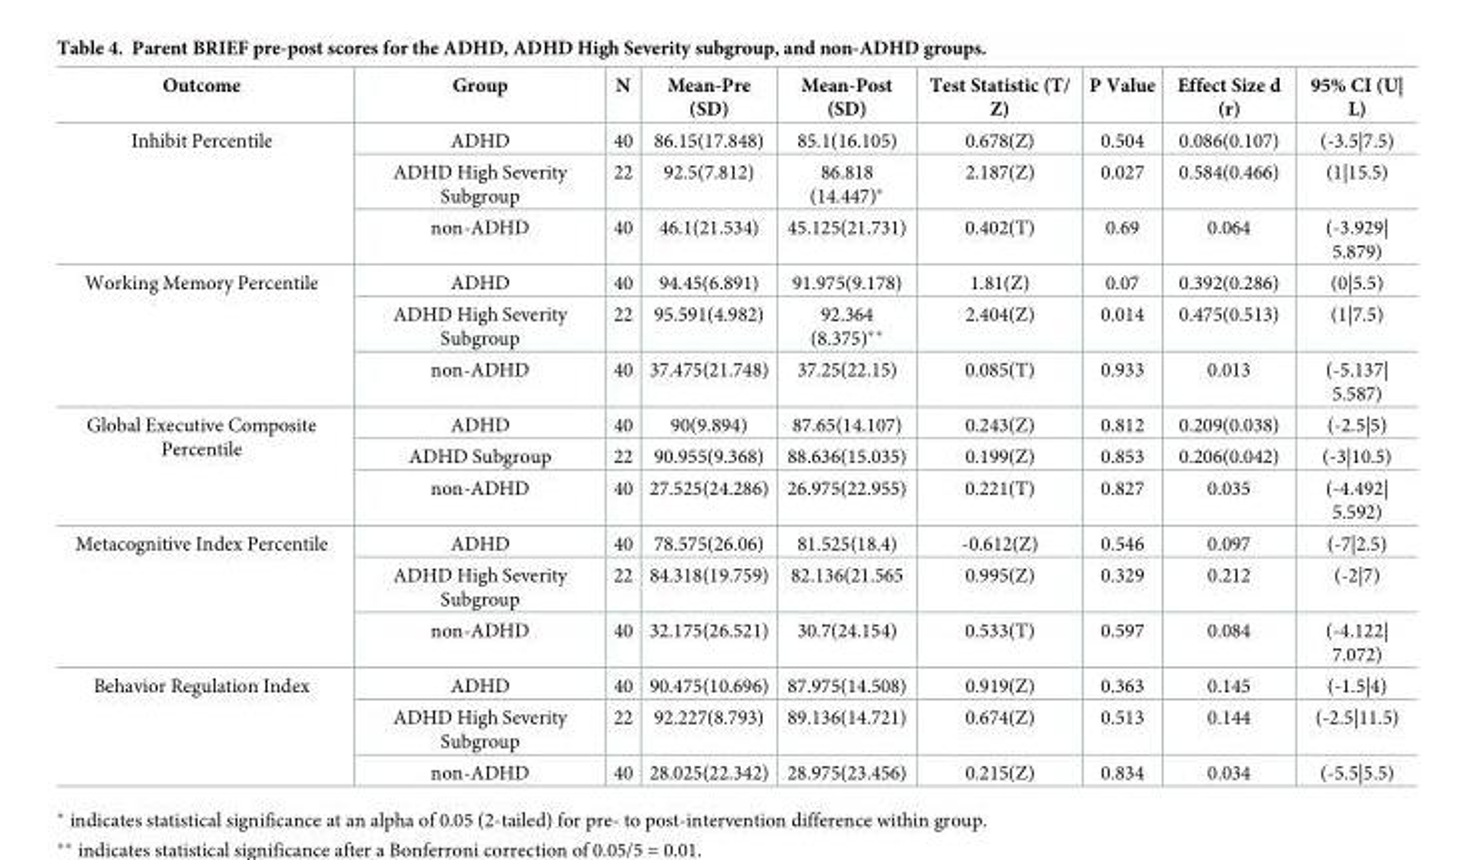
<table><thead><tr><td>Outcome</td><td>Group</td><td>N</td><td>Mean-Pre (SD)</td><td>Mean-Post (SD)</td><td>Test Statistic (T/ Z)</td><td>P Value</td><td>Effect Size d (r)</td><td>95% CI (U| L)</td></tr></thead><tbody><tr><td rowspan="3">Inhibit Percentile</td><td>ADHD</td><td>40</td><td>86.15(17.848)</td><td>85.1(16.105)</td><td>0.678(Z)</td><td>0.504</td><td>0.086(0.107)</td><td>(-3.5|7.5)</td></tr><tr><td>ADHD High Severity Subgroup</td><td>22</td><td>92.5(7.812)</td><td>86.818 (14.447)*</td><td>2.187(Z)</td><td>0.027</td><td>0.584(0.466)</td><td>(1|15.5)</td></tr><tr><td>non-ADHD</td><td>40</td><td>46.1(21.534)</td><td>45.125(21.731)</td><td>0.402(T)</td><td>0.69</td><td>0.064</td><td>(-3.929| 5.879)</td></tr><tr><td rowspan="3">Working Memory Percentile</td><td>ADHD</td><td>40</td><td>94.45(6.891)</td><td>91.975(9.178)</td><td>1.81(Z)</td><td>0.07</td><td>0.392(0.286)</td><td>(0|5.5)</td></tr><tr><td>ADHD High Severity Subgroup</td><td>22</td><td>95.591(4.982)</td><td>92.364 (8.375)**</td><td>2.404(Z)</td><td>0.014</td><td>0.475(0.513)</td><td>(1|7.5)</td></tr><tr><td>non-ADHD</td><td>40</td><td>37.475(21.748)</td><td>37.25(22.15)</td><td>0.085(T)</td><td>0.933</td><td>0.013</td><td>(-5.137| 5.587)</td></tr><tr><td rowspan="3">Global Executive Composite Percentile</td><td>ADHD</td><td>40</td><td>90(9.894)</td><td>87.65(14.107)</td><td>0.243(Z)</td><td>0.812</td><td>0.209(0.038)</td><td>(-2.5|5)</td></tr><tr><td>ADHD Subgroup</td><td>22</td><td>90.955(9.368)</td><td>88.636(15.035)</td><td>0.199(Z)</td><td>0.853</td><td>0.206(0.042)</td><td>(-3|10.5)</td></tr><tr><td>non-ADHD</td><td>40</td><td>27.525(24.286)</td><td>26.975(22.955)</td><td>0.221(T)</td><td>0.827</td><td>0.035</td><td>(-4.492| 5.592)</td></tr><tr><td rowspan="3">Metacognitive Index Percentile</td><td>ADHD</td><td>40</td><td>78.575(26.06)</td><td>81.525(18.4)</td><td>-0.612(Z)</td><td>0.546</td><td>0.097</td><td>(-7|2.5)</td></tr><tr><td>ADHD High Severity Subgroup</td><td>22</td><td>84.318(19.759)</td><td>82.136(21.565</td><td>0.995(Z)</td><td>0.329</td><td>0.212</td><td>(-2|7)</td></tr><tr><td>non-ADHD</td><td>40</td><td>32.175(26.521)</td><td>30.7(24.154)</td><td>0.533(T)</td><td>0.597</td><td>0.084</td><td>(-4.122| 7.072)</td></tr><tr><td rowspan="3">Behavior Regulation Index</td><td>ADHD</td><td>40</td><td>90.475(10.696)</td><td>87.975(14.508)</td><td>0.919(Z)</td><td>0.363</td><td>0.145</td><td>(-1.5|4)</td></tr><tr><td>ADHD High Severity Subgroup</td><td>22</td><td>92.227(8.793)</td><td>89.136(14.721)</td><td>0.674(Z)</td><td>0.513</td><td>0.144</td><td>(-2.5|11.5)</td></tr><tr><td>non-ADHD</td><td>40</td><td>28.025(22.342)</td><td>28.975(23.456)</td><td>0.215(Z)</td><td>0.834</td><td>0.034</td><td>(-5.5|5.5)</td></tr></tbody></table>